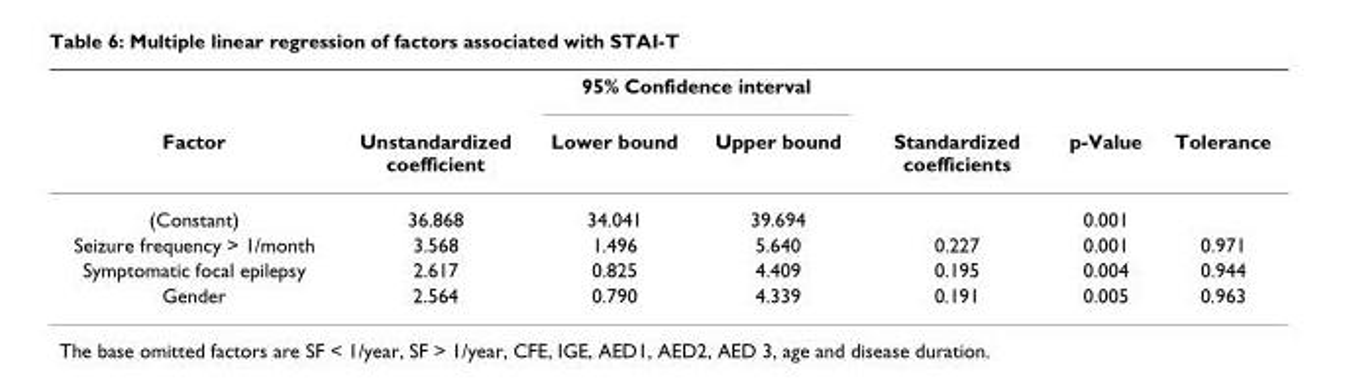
<table><thead><tr><td rowspan="2">Factor</td><td rowspan="2">Unstandardized coefficient</td><td colspan="2">95% Confidence interval</td><td rowspan="2">Standardized coefficients</td><td rowspan="2">p-Value</td><td rowspan="2">Tolerance</td></tr><tr><td>Lower bound</td><td>Upper bound</td></tr></thead><tbody><tr><td>(Constant)</td><td>36.868</td><td>34.041</td><td>39.694</td><td></td><td>0.001</td><td></td></tr><tr><td>Seizure frequency &gt; 1/month</td><td>3.568</td><td>1.496</td><td>5.640</td><td>0.227</td><td>0.001</td><td>0.971</td></tr><tr><td>Symptomatic focal epilepsy</td><td>2.617</td><td>0.825</td><td>4.409</td><td>0.195</td><td>0.004</td><td>0.944</td></tr><tr><td>Gender</td><td>2.564</td><td>0.790</td><td>4.339</td><td>0.191</td><td>0.005</td><td>0.963</td></tr></tbody></table>